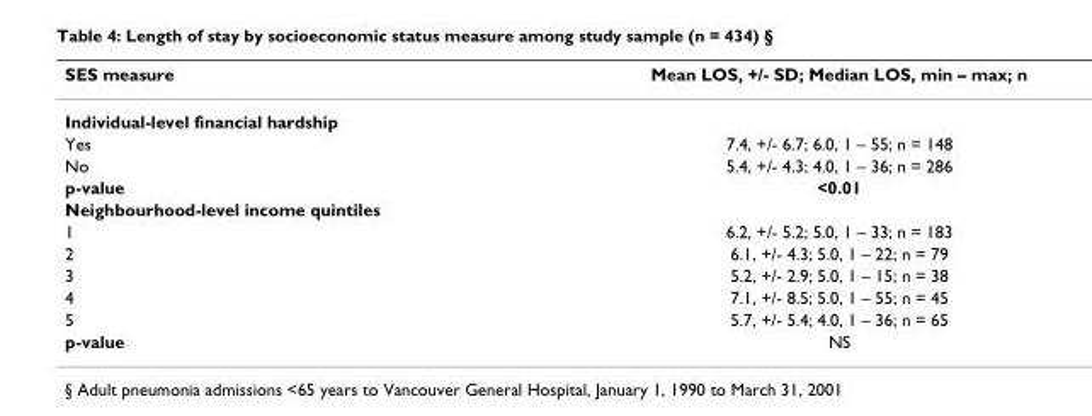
<table><thead><tr><td>SES measure</td><td>Mean LOS, +/- SD; Median LOS, min – max; n</td></tr></thead><tbody><tr><td colspan="2">Individual-level financial hardship</td></tr><tr><td>Yes</td><td>7.4, +/- 6.7; 6.0, 1 – 55; n = 148</td></tr><tr><td>No</td><td>5.4, +/- 4.3; 4.0, 1 – 36; n = 286</td></tr><tr><td>p-value</td><td>&lt;0.01</td></tr><tr><td colspan="2">Neighbourhood-level income quintiles</td></tr><tr><td>1</td><td>6.2, +/- 5.2; 5.0, 1 – 33; n = 183</td></tr><tr><td>2</td><td>6.1, +/- 4.3; 5.0, 1 – 22; n = 79</td></tr><tr><td>3</td><td>5.2, +/- 2.9; 5.0, 1 – 15; n = 38</td></tr><tr><td>4</td><td>7.1, +/- 8.5; 5.0, 1 – 55; n = 45</td></tr><tr><td>5</td><td>5.7, +/- 5.4; 4.0, 1 – 36; n = 65</td></tr><tr><td>p-value</td><td>NS</td></tr></tbody></table>